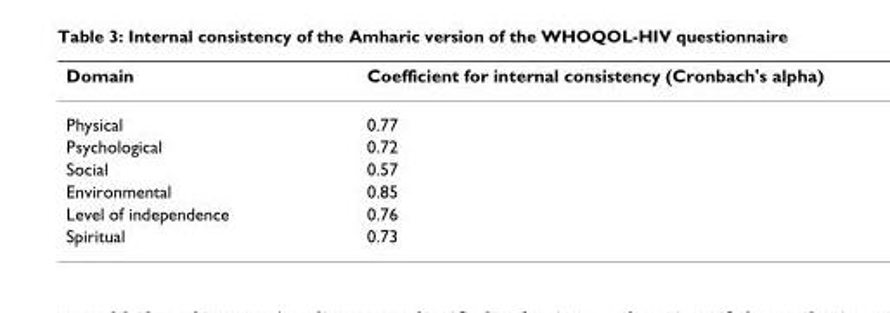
<table><thead><tr><td>Domain</td><td>Coefficient for internal consistency (Cronbach&#x27;s alpha)</td></tr></thead><tbody><tr><td>Physical</td><td>0.77</td></tr><tr><td>Psychological</td><td>0.72</td></tr><tr><td>Social</td><td>0.57</td></tr><tr><td>Environmental</td><td>0.85</td></tr><tr><td>Level of independence</td><td>0.76</td></tr><tr><td>Spiritual</td><td>0.73</td></tr></tbody></table>